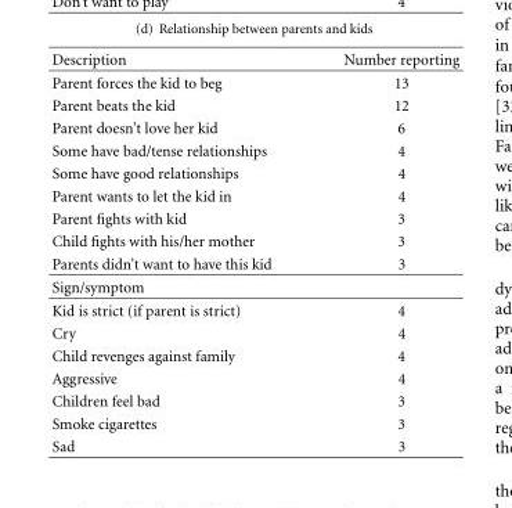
<table><thead><tr><td>Description</td><td>Number reporting</td></tr></thead><tbody><tr><td>Parent forces the kid to beg</td><td>13</td></tr><tr><td>Parent beats the kid</td><td>12</td></tr><tr><td>Parent doesn’t love her kid</td><td>6</td></tr><tr><td>Some have bad/tense relationships</td><td>4</td></tr><tr><td>Some have good relationships</td><td>4</td></tr><tr><td>Parent wants to let the kid in</td><td>4</td></tr><tr><td>Parent fights with kid</td><td>3</td></tr><tr><td>Child fights with his/her mother</td><td>3</td></tr><tr><td>Parents didn’t want to have this kid</td><td>3</td></tr><tr><td colspan="2">Sign/symptom</td></tr><tr><td>Kid is strict (if parent is strict)</td><td>4</td></tr><tr><td>Cry</td><td>4</td></tr><tr><td>Child revenges against family</td><td>4</td></tr><tr><td>Aggressive</td><td>4</td></tr><tr><td>Children feel bad</td><td>3</td></tr><tr><td>Smoke cigarettes</td><td>3</td></tr><tr><td>Sad</td><td>3</td></tr></tbody></table>